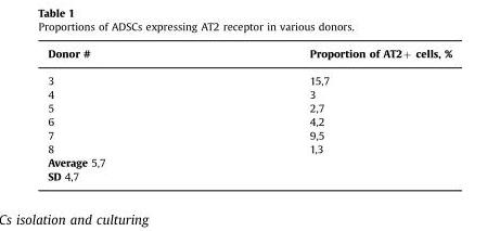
<table><thead><tr><td>Donor #</td><td>Proportion of AT2+ cells, %</td></tr></thead><tbody><tr><td>3</td><td>15,7</td></tr><tr><td>4</td><td>3</td></tr><tr><td>5</td><td>2,7</td></tr><tr><td>6</td><td>4,2</td></tr><tr><td>7</td><td>9,5</td></tr><tr><td>8</td><td>1,3</td></tr><tr><td colspan="2">Average 5,7</td></tr><tr><td colspan="2">SD 4,7</td></tr></tbody></table>